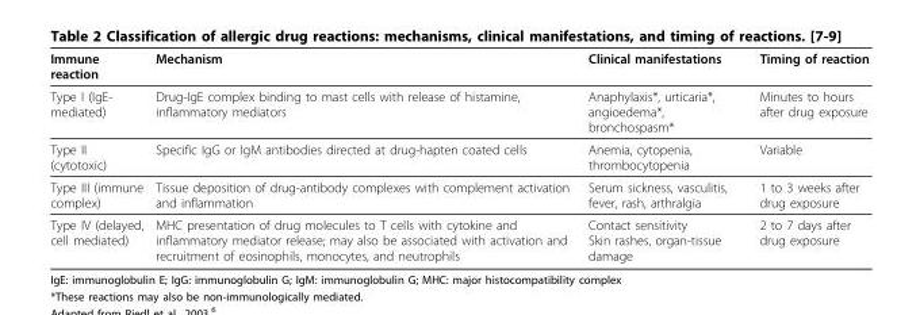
<table><thead><tr><td>Immune reaction</td><td>Mechanism</td><td>Clinical manifestations</td><td>Timing of reaction</td></tr></thead><tbody><tr><td>Type I (IgE- mediated)</td><td>Drug-IgE complex binding to mast cells with release of histamine, inflammatory mediators</td><td>Anaphylaxis*, urticaria*, angioedema*, bronchospasm*</td><td>Minutes to hours after drug exposure</td></tr><tr><td>Type II (cytotoxic)</td><td>Specific IgG or IgM antibodies directed at drug-hapten coated cells</td><td>Anemia, cytopenia, thrombocytopenia</td><td>Variable</td></tr><tr><td>Type III (immune complex)</td><td>Tissue deposition of drug-antibody complexes with complement activation and inflammation</td><td>Serum sickness, vasculitis, fever, rash, arthralgia</td><td>1 to 3 weeks after drug exposure</td></tr><tr><td>Type IV (delayed, cell mediated)</td><td>MHC presentation of drug molecules to T cells with cytokine and inflammatory mediator release; may also be associated with activation and recruitment of eosinophils, monocytes, and neutrophils</td><td>Contact sensitivity Skin rashes, organ-tissue damage</td><td>2 to 7 days after drug exposure</td></tr></tbody></table>